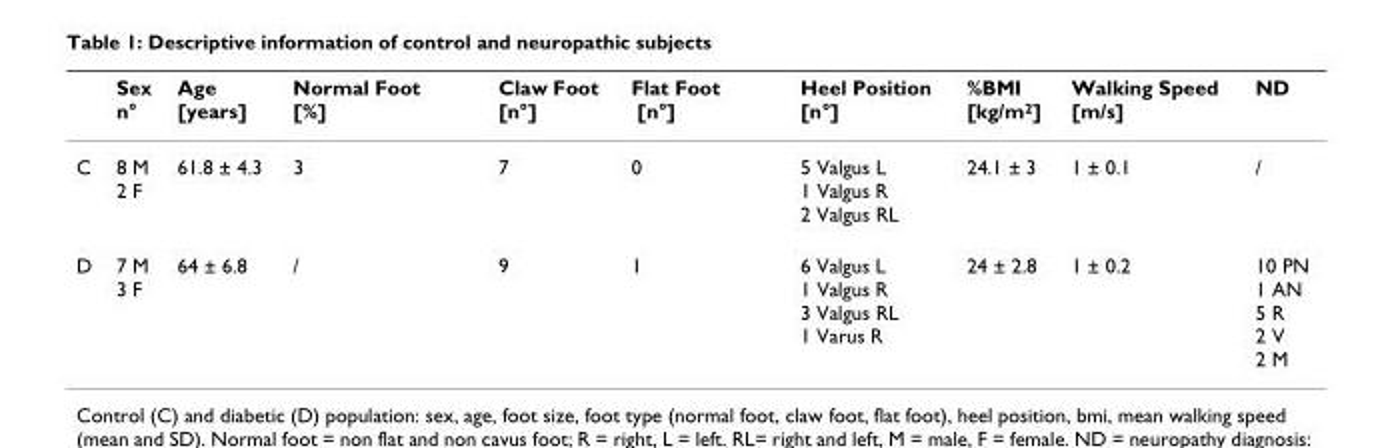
<table><thead><tr><td></td><td>Sex n°</td><td>Age [years]</td><td>Normal Foot [%]</td><td>Claw Foot [n°]</td><td>Flat Foot [n°]</td><td>Heel Position [n°]</td><td>%BMI [kg/m<sup>2</sup>]</td><td>Walking Speed [m/s]</td><td>ND</td></tr></thead><tbody><tr><td>C</td><td>8 M 2 F</td><td>61.8 ± 4.3</td><td>3</td><td>7</td><td>0</td><td>5 Valgus L 1 Valgus R 2 Valgus RL</td><td>24.1 ± 3</td><td>1 ± 0.1</td><td>/</td></tr><tr><td>D</td><td>7 M 3 F</td><td>64 ± 6.8</td><td>/</td><td>9</td><td>1</td><td>6 Valgus L 1 Valgus R 3 Valgus RL 1 Varus R</td><td>24 ± 2.8</td><td>1 ± 0.2</td><td>10 PN 1 AN 5 R 2 V 2 M</td></tr></tbody></table>